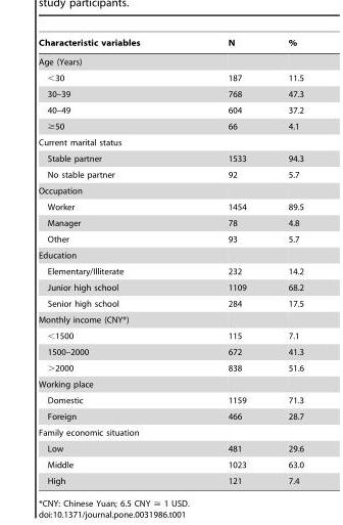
<table><thead><tr><td>Characteristic variables</td><td>N</td><td>%</td></tr></thead><tbody><tr><td colspan="3">Age (Years)</td></tr><tr><td>&lt;30</td><td>187</td><td>11.5</td></tr><tr><td>30–39</td><td>768</td><td>47.3</td></tr><tr><td>40–49</td><td>604</td><td>37.2</td></tr><tr><td>≥50</td><td>66</td><td>4.1</td></tr><tr><td colspan="3">Current marital status</td></tr><tr><td>Stable partner</td><td>1533</td><td>94.3</td></tr><tr><td>No stable partner</td><td>92</td><td>5.7</td></tr><tr><td colspan="3">Occupation</td></tr><tr><td>Worker</td><td>1454</td><td>89.5</td></tr><tr><td>Manager</td><td>78</td><td>4.8</td></tr><tr><td>Other</td><td>93</td><td>5.7</td></tr><tr><td colspan="3">Education</td></tr><tr><td>Elementary/Illiterate</td><td>232</td><td>14.2</td></tr><tr><td>Junior high school</td><td>1109</td><td>68.2</td></tr><tr><td>Senior high school</td><td>284</td><td>17.5</td></tr><tr><td colspan="3">Monthly income (CNY*)</td></tr><tr><td>&lt;1500</td><td>115</td><td>7.1</td></tr><tr><td>1500–2000</td><td>672</td><td>41.3</td></tr><tr><td>&gt;2000</td><td>838</td><td>51.6</td></tr><tr><td colspan="3">Working place</td></tr><tr><td>Domestic</td><td>1159</td><td>71.3</td></tr><tr><td>Foreign</td><td>466</td><td>28.7</td></tr><tr><td colspan="3">Family economic situation</td></tr><tr><td>Low</td><td>481</td><td>29.6</td></tr><tr><td>Middle</td><td>1023</td><td>63.0</td></tr><tr><td>High</td><td>121</td><td>7.4</td></tr></tbody></table>